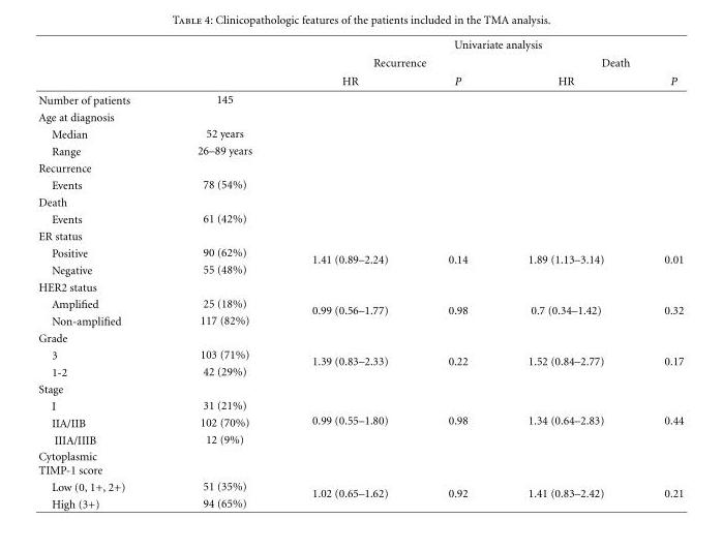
<table><thead><tr><td rowspan="3"></td><td rowspan="3"></td><td colspan="4">Univariate analysis</td></tr><tr><td colspan="2">Recurrence</td><td colspan="2">Death</td></tr><tr><td>HR</td><td>P</td><td>HR</td><td>P</td></tr></thead><tbody><tr><td>Number of patients</td><td>145</td><td></td><td></td><td></td><td></td></tr><tr><td colspan="6">Age at diagnosis</td></tr><tr><td>Median</td><td>52 years</td><td></td><td></td><td></td><td></td></tr><tr><td>Range</td><td>26–89 years</td><td></td><td></td><td></td><td></td></tr><tr><td colspan="6">Recurrence</td></tr><tr><td>Events</td><td>78 (54%)</td><td></td><td></td><td></td><td></td></tr><tr><td colspan="6">Death</td></tr><tr><td>Events</td><td>61 (42%)</td><td></td><td></td><td></td><td></td></tr><tr><td colspan="6">ER status</td></tr><tr><td>Positive</td><td>90 (62%)</td><td rowspan="2">1.41 (0.89–2.24)</td><td rowspan="2">0.14</td><td rowspan="2">1.89 (1.13–3.14)</td><td rowspan="2">0.01</td></tr><tr><td>Negative</td><td>55 (48%)</td></tr><tr><td colspan="6">HER2 status</td></tr><tr><td>Amplified</td><td>25 (18%)</td><td rowspan="2">0.99 (0.56–1.77)</td><td rowspan="2">0.98</td><td rowspan="2">0.7 (0.34–1.42)</td><td rowspan="2">0.32</td></tr><tr><td>Non-amplified</td><td>117 (82%)</td></tr><tr><td colspan="6">Grade</td></tr><tr><td>3</td><td>103 (71%)</td><td rowspan="2">1.39 (0.83–2.33)</td><td rowspan="2">0.22</td><td rowspan="2">1.52 (0.84–2.77)</td><td rowspan="2">0.17</td></tr><tr><td>1-2</td><td>42 (29%)</td></tr><tr><td colspan="6">Stage</td></tr><tr><td>I</td><td>31 (21%)</td><td rowspan="3">0.99 (0.55–1.80)</td><td rowspan="3">0.98</td><td rowspan="3">1.34 (0.64–2.83)</td><td rowspan="3">0.44</td></tr><tr><td>IIA/IIB</td><td>102 (70%)</td></tr><tr><td>IIIA/IIIB</td><td>12 (9%)</td></tr><tr><td colspan="6">Cytoplasmic TIMP-1 score</td></tr><tr><td>Low (0, 1+, 2+)</td><td>51 (35%)</td><td rowspan="2">1.02 (0.65–1.62)</td><td rowspan="2">0.92</td><td rowspan="2">1.41 (0.83–2.42)</td><td rowspan="2">0.21</td></tr><tr><td>High (3+)</td><td>94 (65%)</td></tr></tbody></table>